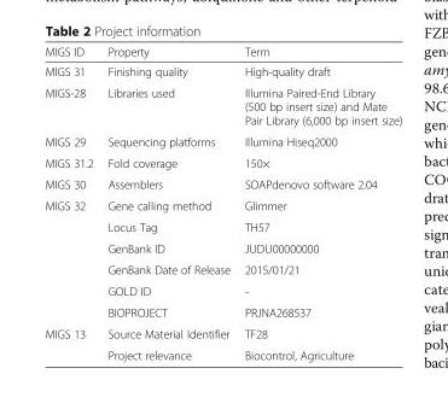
<table><thead><tr><td>MIGS ID</td><td>Property</td><td>Term</td></tr></thead><tbody><tr><td>MIGS 31</td><td>Finishing quality</td><td>High-quality draft</td></tr><tr><td>MIGS-28</td><td>Libraries used</td><td>Illumina Paired-End Library (500 bp insert size) and Mate Pair Library (6,000 bp insert size)</td></tr><tr><td>MIGS 29</td><td>Sequencing platforms</td><td>Illumina Hiseq2000</td></tr><tr><td>MIGS 31.2</td><td>Fold coverage</td><td>150×</td></tr><tr><td>MIGS 30</td><td>Assemblers</td><td>SOAPdenovo software 2.04</td></tr><tr><td rowspan="6">MIGS 32</td><td>Gene calling method</td><td>Glimmer</td></tr><tr><td>Locus Tag</td><td>TH57</td></tr><tr><td>GenBank ID</td><td>JUDU00000000</td></tr><tr><td>GenBank Date of Release</td><td>2015/01/21</td></tr><tr><td>GOLD ID</td><td>-</td></tr><tr><td>BIOPROJECT</td><td>PRJNA268537</td></tr><tr><td rowspan="2">MIGS 13</td><td>Source Material Identifier</td><td>TF28</td></tr><tr><td>Project relevance</td><td>Biocontrol, Agriculture</td></tr></tbody></table>